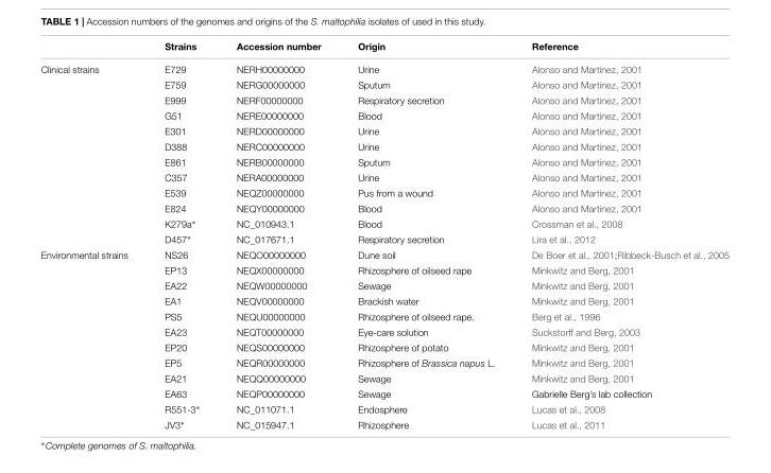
<table><thead><tr><td></td><td>Strains</td><td>Accession number</td><td>Origin</td><td>Reference</td></tr></thead><tbody><tr><td rowspan="12">Clinical strains</td><td>E729</td><td>NERH00000000</td><td>Urine</td><td>Alonso and Martinez, 2001</td></tr><tr><td>E759</td><td>NERG00000000</td><td>Sputum</td><td>Alonso and Martinez, 2001</td></tr><tr><td>E999</td><td>NERF00000000</td><td>Respiratory secretion</td><td>Alonso and Martinez, 2001</td></tr><tr><td>G51</td><td>NERE00000000</td><td>Blood</td><td>Alonso and Martinez, 2001</td></tr><tr><td>E301</td><td>NERD00000000</td><td>Urine</td><td>Alonso and Martinez, 2001</td></tr><tr><td>D388</td><td>NERC00000000</td><td>Urine</td><td>Alonso and Martinez, 2001</td></tr><tr><td>E861</td><td>NERB00000000</td><td>Sputum</td><td>Alonso and Martinez, 2001</td></tr><tr><td>C357</td><td>NERA00000000</td><td>Urine</td><td>Alonso and Martinez, 2001</td></tr><tr><td>E539</td><td>NEQZ00000000</td><td>Pus from a wound</td><td>Alonso and Martinez, 2001</td></tr><tr><td>E824</td><td>NEQY00000000</td><td>Blood</td><td>Alonso and Martinez, 2001</td></tr><tr><td>K279a∗</td><td>NC_010943.1</td><td>Blood</td><td>Crossman et al., 2008</td></tr><tr><td>D457∗</td><td>NC_017671.1</td><td>Respiratory secretion</td><td>Lira et al., 2012</td></tr><tr><td rowspan="12">Environmental strains</td><td>NS26</td><td>NEQO00000000</td><td>Dune soil</td><td>De Boer et al., 2001;Ribbeck-Busch et al., 2005</td></tr><tr><td>EP13</td><td>NEQX00000000</td><td>Rhizosphere of oilseed rape</td><td>Minkwitz and Berg, 2001</td></tr><tr><td>EA22</td><td>NEQW00000000</td><td>Sewage</td><td>Minkwitz and Berg, 2001</td></tr><tr><td>EA1</td><td>NEQV00000000</td><td>Brackish water</td><td>Minkwitz and Berg, 2001</td></tr><tr><td>PS5</td><td>NEQU00000000</td><td>Rhizosphere of oilseed rape.</td><td>Berg et al., 1996</td></tr><tr><td>EA23</td><td>NEQT00000000</td><td>Eye-care solution</td><td>Suckstorff and Berg, 2003</td></tr><tr><td>EP20</td><td>NEQS00000000</td><td>Rhizosphere of potato</td><td>Minkwitz and Berg, 2001</td></tr><tr><td>EP5</td><td>NEQR00000000</td><td>Rhizosphere of Brassica napus L.</td><td>Minkwitz and Berg, 2001</td></tr><tr><td>EA21</td><td>NEQQ00000000</td><td>Sewage</td><td>Minkwitz and Berg, 2001</td></tr><tr><td>EA63</td><td>NEQP00000000</td><td>Sewage</td><td>Gabrielle Berg’s lab collection</td></tr><tr><td>R551-3∗</td><td>NC_011071.1</td><td>Endosphere</td><td>Lucas et al., 2008</td></tr><tr><td>JV3∗</td><td>NC_015947.1</td><td>Rhizosphere</td><td>Lucas et al., 2011</td></tr></tbody></table>